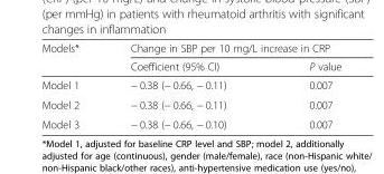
<table><thead><tr><td rowspan="2">Models*</td><td colspan="2">Change in SBP per 10 mg/L increase in CRP</td></tr><tr><td>Coefficient (95% CI)</td><td>P value</td></tr></thead><tbody><tr><td>Model 1</td><td>− 0.38 (− 0.66, − 0.11)</td><td>0.007</td></tr><tr><td>Model 2</td><td>− 0.38 (− 0.66, − 0.11)</td><td>0.007</td></tr><tr><td>Model 3</td><td>− 0.38 (− 0.66, − 0.10)</td><td>0.007</td></tr></tbody></table>